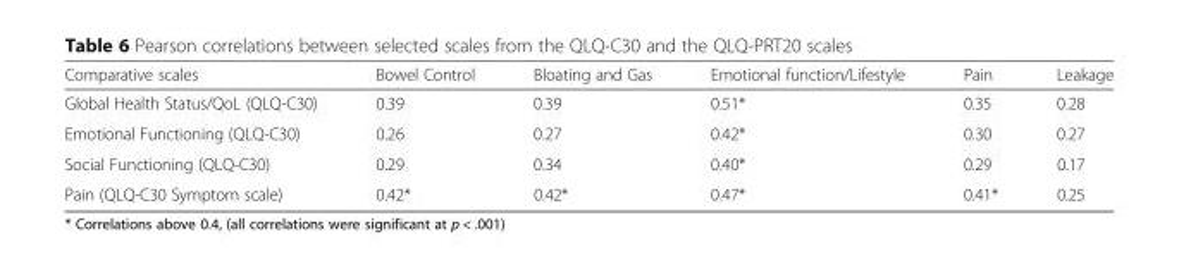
<table><thead><tr><td>Comparative scales</td><td>Bowel Control</td><td>Bloating and Gas</td><td>Emotional function/Lifestyle</td><td>Pain</td><td>Leakage</td></tr></thead><tbody><tr><td>Global Health Status/QoL (QLQ-C30)</td><td>0.39</td><td>0.39</td><td>0.51*</td><td>0.35</td><td>0.28</td></tr><tr><td>Emotional Functioning (QLQ-C30)</td><td>0.26</td><td>0.27</td><td>0.42*</td><td>0.30</td><td>0.27</td></tr><tr><td>Social Functioning (QLQ-C30)</td><td>0.29</td><td>0.34</td><td>0.40*</td><td>0.29</td><td>0.17</td></tr><tr><td>Pain (QLQ-C30 Symptom scale)</td><td>0.42*</td><td>0.42*</td><td>0.47*</td><td>0.41*</td><td>0.25</td></tr></tbody></table>